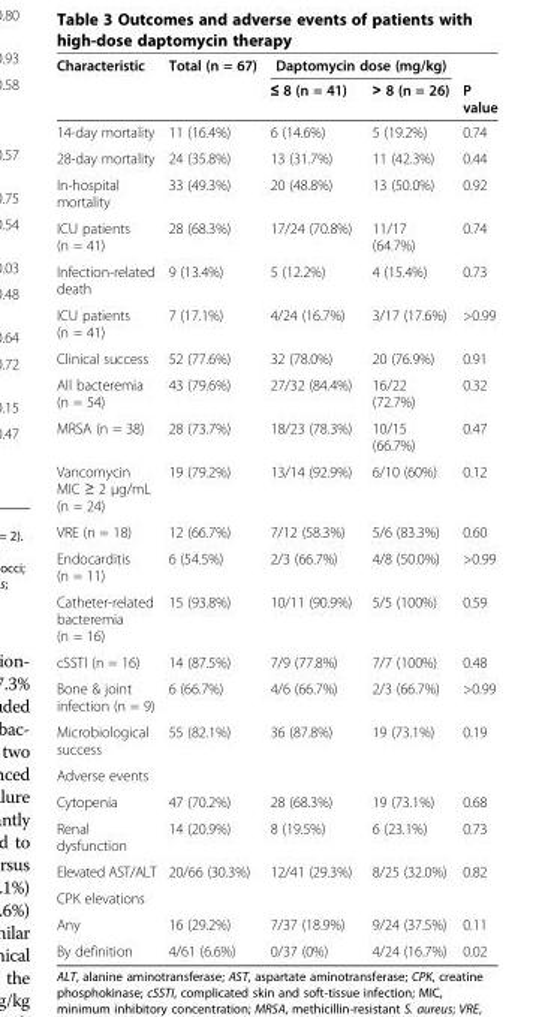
<table><thead><tr><td rowspan="2">Characteristic</td><td rowspan="2">Total (n = 67)</td><td colspan="2">Daptomycin dose (mg/kg)</td><td rowspan="2">P value</td></tr><tr><td>≤ 8 (n = 41)</td><td>&gt; 8 (n = 26)</td></tr></thead><tbody><tr><td>14-day mortality</td><td>11 (16.4%)</td><td>6 (14.6%)</td><td>5 (19.2%)</td><td>0.74</td></tr><tr><td>28-day mortality</td><td>24 (35.8%)</td><td>13 (31.7%)</td><td>11 (42.3%)</td><td>0.44</td></tr><tr><td>In-hospital mortality</td><td>33 (49.3%)</td><td>20 (48.8%)</td><td>13 (50.0%)</td><td>0.92</td></tr><tr><td>ICU patients (n = 41)</td><td>28 (68.3%)</td><td>17/24 (70.8%)</td><td>11/17 (64.7%)</td><td>0.74</td></tr><tr><td>Infection-related death</td><td>9 (13.4%)</td><td>5 (12.2%)</td><td>4 (15.4%)</td><td>0.73</td></tr><tr><td>ICU patients (n = 41)</td><td>7 (17.1%)</td><td>4/24 (16.7%)</td><td>3/17 (17.6%)</td><td>&gt;0.99</td></tr><tr><td>Clinical success</td><td>52 (77.6%)</td><td>32 (78.0%)</td><td>20 (76.9%)</td><td>0.91</td></tr><tr><td>All bacteremia (n = 54)</td><td>43 (79.6%)</td><td>27/32 (84.4%)</td><td>16/22 (72.7%)</td><td>0.32</td></tr><tr><td>MRSA (n = 38)</td><td>28 (73.7%)</td><td>18/23 (78.3%)</td><td>10/15 (66.7%)</td><td>0.47</td></tr><tr><td>Vancomycin MIC ≥ 2 μg/mL (n = 24)</td><td>19 (79.2%)</td><td>13/14 (92.9%)</td><td>6/10 (60%)</td><td>0.12</td></tr><tr><td>VRE (n = 18)</td><td>12 (66.7%)</td><td>7/12 (58.3%)</td><td>5/6 (83.3%)</td><td>0.60</td></tr><tr><td>Endocarditis (n = 11)</td><td>6 (54.5%)</td><td>2/3 (66.7%)</td><td>4/8 (50.0%)</td><td>&gt;0.99</td></tr><tr><td>Catheter-related bacteremia (n = 16)</td><td>15 (93.8%)</td><td>10/11 (90.9%)</td><td>5/5 (100%)</td><td>0.59</td></tr><tr><td>cSSTI (n = 16)</td><td>14 (87.5%)</td><td>7/9 (77.8%)</td><td>7/7 (100%)</td><td>0.48</td></tr><tr><td>Bone &amp; joint infection (n = 9)</td><td>6 (66.7%)</td><td>4/6 (66.7%)</td><td>2/3 (66.7%)</td><td>&gt;0.99</td></tr><tr><td>Microbiological success</td><td>55 (82.1%)</td><td>36 (87.8%)</td><td>19 (73.1%)</td><td>0.19</td></tr><tr><td colspan="5">Adverse events</td></tr><tr><td>Cytopenia</td><td>47 (70.2%)</td><td>28 (68.3%)</td><td>19 (73.1%)</td><td>0.68</td></tr><tr><td>Renal dysfunction</td><td>14 (20.9%)</td><td>8 (19.5%)</td><td>6 (23.1%)</td><td>0.73</td></tr><tr><td>Elevated AST/ALT</td><td>20/66 (30.3%)</td><td>12/41 (29.3%)</td><td>8/25 (32.0%)</td><td>0.82</td></tr><tr><td colspan="5">CPK elevations</td></tr><tr><td>Any</td><td>16 (29.2%)</td><td>7/37 (18.9%)</td><td>9/24 (37.5%)</td><td>0.11</td></tr><tr><td>By definition</td><td>4/61 (6.6%)</td><td>0/37 (0%)</td><td>4/24 (16.7%)</td><td>0.02</td></tr></tbody></table>